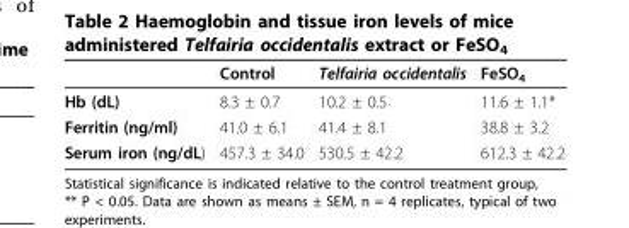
<table><thead><tr><td></td><td>Control</td><td>Telfairia occidentalis</td><td>FeSO<sub>4</sub></td></tr></thead><tbody><tr><td>Hb (dL)</td><td>8.3 ± 0.7</td><td>10.2 ± 0.5</td><td>11.6 ± 1.1*</td></tr><tr><td>Ferritin (ng/ml)</td><td>41.0 ± 6.1</td><td>41.4 ± 8.1</td><td>38.8 ± 3.2</td></tr><tr><td>Serum iron (ng/dL)</td><td>457.3 ± 34.0</td><td>530.5 ± 42.2</td><td>612.3 ± 42.2</td></tr></tbody></table>